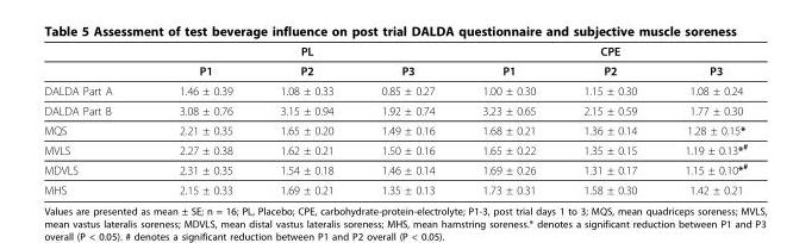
<table><thead><tr><td></td><td></td><td>PL</td><td></td><td></td><td>CPE</td><td></td></tr></thead><tbody><tr><td></td><td>P1</td><td>P2</td><td>P3</td><td>P1</td><td>P2</td><td>P3</td></tr><tr><td>DALDA Part A</td><td>1.46 ± 0.39</td><td>1.08 ± 0.33</td><td>0.85 ± 0.27</td><td>1.00 ± 0.30</td><td>1.15 ± 0.30</td><td>1.08 ± 0.24</td></tr><tr><td>DALDA Part B</td><td>3.08 ± 0.76</td><td>3.15 ± 0.94</td><td>1.92 ± 0.74</td><td>3.23 ± 0.65</td><td>2.15 ± 0.59</td><td>1.77 ± 0.30</td></tr><tr><td>MQS</td><td>2.21 ± 0.35</td><td>1.65 ± 0.20</td><td>1.49 ± 0.16</td><td>1.68 ± 0.21</td><td>1.36 ± 0.14</td><td>1.28 ± 0.15*</td></tr><tr><td>MVLS</td><td>2.27 ± 0.38</td><td>1.62 ± 0.21</td><td>1.50 ± 0.16</td><td>1.65 ± 0.22</td><td>1.35 ± 0.15</td><td>1.19 ± 0.13*<sup>#</sup></td></tr><tr><td>MDVLS</td><td>2.31 ± 0.35</td><td>1.54 ± 0.18</td><td>1.46 ± 0.14</td><td>1.69 ± 0.26</td><td>1.31 ± 0.17</td><td>1.15 ± 0.10*<sup>#</sup></td></tr><tr><td>MHS</td><td>2.15 ± 0.33</td><td>1.69 ± 0.21</td><td>1.35 ± 0.13</td><td>1.73 ± 0.31</td><td>1.58 ± 0.30</td><td>1.42 ± 0.21</td></tr></tbody></table>